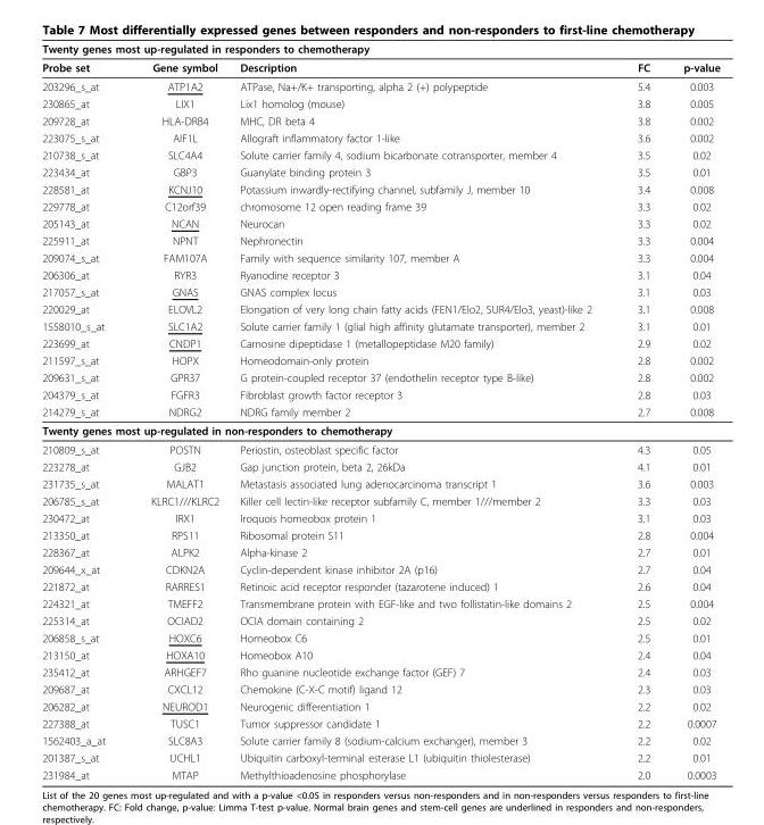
<table><thead><tr><td colspan="5">Twenty genes most up-regulated in responders to chemotherapy</td></tr><tr><td>Probe set</td><td>Gene symbol</td><td>Description</td><td>FC</td><td>p-value</td></tr></thead><tbody><tr><td>203296_s_at</td><td>ATP1A2</td><td>ATPase, Na+/K+ transporting, alpha 2 (+) polypeptide</td><td>5.4</td><td>0.003</td></tr><tr><td>230865_at</td><td>LIX1</td><td>Lix1 homolog (mouse)</td><td>3.8</td><td>0.005</td></tr><tr><td>209728_at</td><td>HLA-DRB4</td><td>MHC, DR beta 4</td><td>3.8</td><td>0.002</td></tr><tr><td>223075_s_at</td><td>AIF1L</td><td>Allograft inflammatory factor 1-like</td><td>3.6</td><td>0.002</td></tr><tr><td>210738_s_at</td><td>SLC4A4</td><td>Solute carrier family 4, sodium bicarbonate cotransporter, member 4</td><td>3.5</td><td>0.02</td></tr><tr><td>223434_at</td><td>GBP3</td><td>Guanylate binding protein 3</td><td>3.5</td><td>0.01</td></tr><tr><td>228581_at</td><td>KCNJ10</td><td>Potassium inwardly-rectifying channel, subfamily J, member 10</td><td>3.4</td><td>0.008</td></tr><tr><td>229778_at</td><td>C12orf39</td><td>chromosome 12 open reading frame 39</td><td>3.3</td><td>0.02</td></tr><tr><td>205143_at</td><td>NCAN</td><td>Neurocan</td><td>3.3</td><td>0.02</td></tr><tr><td>225911_at</td><td>NPNT</td><td>Nephronectin</td><td>3.3</td><td>0.004</td></tr><tr><td>209074_s_at</td><td>FAM107A</td><td>Family with sequence similarity 107, member A</td><td>3.3</td><td>0.004</td></tr><tr><td>206306_at</td><td>RYR3</td><td>Ryanodine receptor 3</td><td>3.1</td><td>0.04</td></tr><tr><td>217057_s_at</td><td>GNAS</td><td>GNAS complex locus</td><td>3.1</td><td>0.03</td></tr><tr><td>220029_at</td><td>ELOVL2</td><td>Elongation of very long chain fatty acids (FEN1/Elo2, SUR4/Elo3, yeast)-like 2</td><td>3.1</td><td>0.008</td></tr><tr><td>1558010_s_at</td><td>SLC1A2</td><td>Solute carrier family 1 (glial high affinity glutamate transporter), member 2</td><td>3.1</td><td>0.01</td></tr><tr><td>223699_at</td><td>CNDP1</td><td>Carnosine dipeptidase 1 (metallopeptidase M20 family)</td><td>2.9</td><td>0.02</td></tr><tr><td>211597_s_at</td><td>HOPX</td><td>Homeodomain-only protein</td><td>2.8</td><td>0.002</td></tr><tr><td>209631_s_at</td><td>GPR37</td><td>G protein-coupled receptor 37 (endothelin receptor type B-like)</td><td>2.8</td><td>0.002</td></tr><tr><td>204379_s_at</td><td>FGFR3</td><td>Fibroblast growth factor receptor 3</td><td>2.8</td><td>0.03</td></tr><tr><td>214279_s_at</td><td>NDRG2</td><td>NDRG family member 2</td><td>2.7</td><td>0.008</td></tr><tr><td colspan="5">Twenty genes most up-regulated in non-responders to chemotherapy</td></tr><tr><td>210809_s_at</td><td>POSTN</td><td>Periostin, osteoblast specific factor</td><td>4.3</td><td>0.05</td></tr><tr><td>223278_at</td><td>GJB2</td><td>Gap junction protein, beta 2, 26kDa</td><td>4.1</td><td>0.01</td></tr><tr><td>231735_s_at</td><td>MALAT1</td><td>Metastasis associated lung adenocarcinoma transcript 1</td><td>3.6</td><td>0.003</td></tr><tr><td>206785_s_at</td><td>KLRC1///KLRC2</td><td>Killer cell lectin-like receptor subfamily C, member 1///member 2</td><td>3.3</td><td>0.03</td></tr><tr><td>230472_at</td><td>IRX1</td><td>Iroquois homeobox protein 1</td><td>3.1</td><td>0.03</td></tr><tr><td>213350_at</td><td>RPS11</td><td>Ribosomal protein S11</td><td>2.8</td><td>0.004</td></tr><tr><td>228367_at</td><td>ALPK2</td><td>Alpha-kinase 2</td><td>2.7</td><td>0.01</td></tr><tr><td>209644_x_at</td><td>CDKN2A</td><td>Cyclin-dependent kinase inhibitor 2A (p16)</td><td>2.7</td><td>0.04</td></tr><tr><td>221872_at</td><td>RARRES1</td><td>Retinoic acid receptor responder (tazarotene induced) 1</td><td>2.6</td><td>0.04</td></tr><tr><td>224321_at</td><td>TMEFF2</td><td>Transmembrane protein with EGF-like and two follistatin-like domains 2</td><td>2.5</td><td>0.004</td></tr><tr><td>225314_at</td><td>OCIAD2</td><td>OCIA domain containing 2</td><td>2.5</td><td>0.02</td></tr><tr><td>206858_s_at</td><td>HOXC6</td><td>Homeobox C6</td><td>2.5</td><td>0.01</td></tr><tr><td>213150_at</td><td>HOXA10</td><td>Homeobox A10</td><td>2.4</td><td>0.04</td></tr><tr><td>235412_at</td><td>ARHGEF7</td><td>Rho guanine nucleotide exchange factor (GEF) 7</td><td>2.4</td><td>0.03</td></tr><tr><td>209687_at</td><td>CXCL12</td><td>Chemokine (C-X-C motif) ligand 12</td><td>2.3</td><td>0.03</td></tr><tr><td>206282_at</td><td>NEUROD1</td><td>Neurogenic differentiation 1</td><td>2.2</td><td>0.02</td></tr><tr><td>227388_at</td><td>TUSC1</td><td>Tumor suppressor candidate 1</td><td>2.2</td><td>0.0007</td></tr><tr><td>1562403_a_at</td><td>SLC8A3</td><td>Solute carrier family 8 (sodium-calcium exchanger), member 3</td><td>2.2</td><td>0.02</td></tr><tr><td>201387_s_at</td><td>UCHL1</td><td>Ubiquitin carboxyl-terminal esterase L1 (ubiquitin thiolesterase)</td><td>2.2</td><td>0.01</td></tr><tr><td>231984_at</td><td>MTAP</td><td>Methylthioadenosine phosphorylase</td><td>2.0</td><td>0.0003</td></tr></tbody></table>